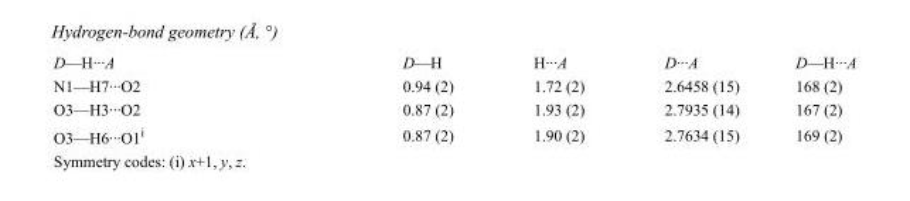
<table><tbody><tr><td>D—H···A</td><td>D—H</td><td>H···A</td><td>D···A</td><td>D—H···A</td></tr><tr><td>N1—H7···O2</td><td>0.94 (2)</td><td>1.72 (2)</td><td>2.6458 (15)</td><td>168 (2)</td></tr><tr><td>O3—H3···O2</td><td>0.87 (2)</td><td>1.93 (2)</td><td>2.7935 (14)</td><td>167 (2)</td></tr><tr><td>O3—H6···O1<sup>i</sup></td><td>0.87 (2)</td><td>1.90 (2)</td><td>2.7634 (15)</td><td>169 (2)</td></tr></tbody></table>